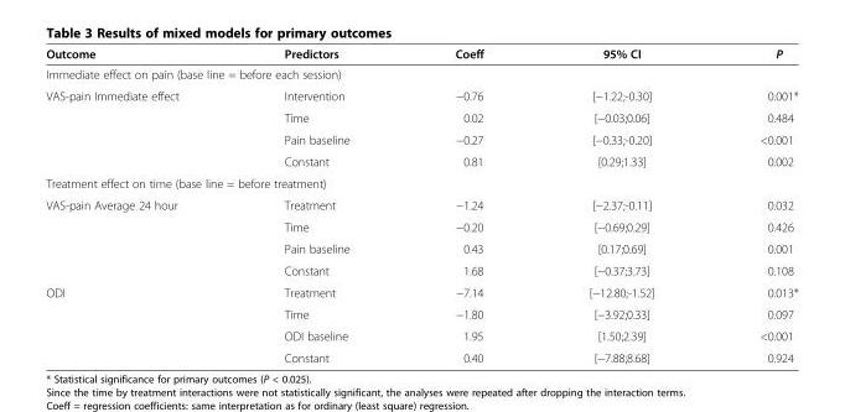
<table><thead><tr><td>Outcome</td><td>Predictors</td><td>Coeff</td><td>95% CI</td><td>P</td></tr></thead><tbody><tr><td colspan="5">Immediate effect on pain (base line = before each session)</td></tr><tr><td rowspan="4">VAS-pain Immediate effect</td><td>Intervention</td><td>−0.76</td><td>[−1.22;-0.30]</td><td>0.001*</td></tr><tr><td>Time</td><td>0.02</td><td>[−0.03;0.06]</td><td>0.484</td></tr><tr><td>Pain baseline</td><td>−0.27</td><td>[−0.33;-0.20]</td><td>&lt;0.001</td></tr><tr><td>Constant</td><td>0.81</td><td>[0.29;1.33]</td><td>0.002</td></tr><tr><td colspan="5">Treatment effect on time (base line = before treatment)</td></tr><tr><td rowspan="4">VAS-pain Average 24 hour</td><td>Treatment</td><td>−1.24</td><td>[−2.37;-0.11]</td><td>0.032</td></tr><tr><td>Time</td><td>−0.20</td><td>[−0.69;0.29]</td><td>0.426</td></tr><tr><td>Pain baseline</td><td>0.43</td><td>[0.17;0.69]</td><td>0.001</td></tr><tr><td>Constant</td><td>1.68</td><td>[−0.37;3.73]</td><td>0.108</td></tr><tr><td rowspan="4">ODI</td><td>Treatment</td><td>−7.14</td><td>[−12.80;-1.52]</td><td>0.013*</td></tr><tr><td>Time</td><td>−1.80</td><td>[−3.92;0.33]</td><td>0.097</td></tr><tr><td>ODI baseline</td><td>1.95</td><td>[1.50;2.39]</td><td>&lt;0.001</td></tr><tr><td>Constant</td><td>0.40</td><td>[−7.88;8.68]</td><td>0.924</td></tr></tbody></table>